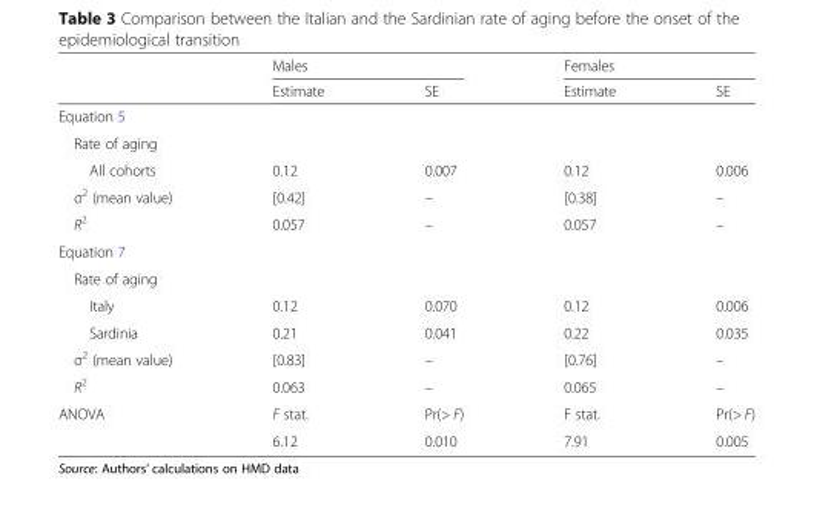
<table><thead><tr><td rowspan="2"></td><td colspan="2">Males</td><td colspan="2">Females</td></tr><tr><td>Estimate</td><td>SE</td><td>Estimate</td><td>SE</td></tr></thead><tbody><tr><td colspan="5">Equation 5</td></tr><tr><td colspan="5">Rate of aging</td></tr><tr><td>All cohorts</td><td>0.12</td><td>0.007</td><td>0.12</td><td>0.006</td></tr><tr><td>σ<sup>2</sup> (mean value)</td><td>[0.42]</td><td>–</td><td>[0.38]</td><td>–</td></tr><tr><td>R<sup>2</sup></td><td>0.057</td><td>–</td><td>0.057</td><td>–</td></tr><tr><td colspan="5">Equation 7</td></tr><tr><td colspan="5">Rate of aging</td></tr><tr><td>Italy</td><td>0.12</td><td>0.070</td><td>0.12</td><td>0.006</td></tr><tr><td>Sardinia</td><td>0.21</td><td>0.041</td><td>0.22</td><td>0.035</td></tr><tr><td>σ<sup>2</sup> (mean value)</td><td>[0.83]</td><td>–</td><td>[0.76]</td><td>–</td></tr><tr><td>R<sup>2</sup></td><td>0.063</td><td>–</td><td>0.065</td><td>–</td></tr><tr><td rowspan="2">ANOVA</td><td>F stat.</td><td>Pr(&gt; F)</td><td>F stat.</td><td>Pr(&gt; F)</td></tr><tr><td>6.12</td><td>0.010</td><td>7.91</td><td>0.005</td></tr></tbody></table>